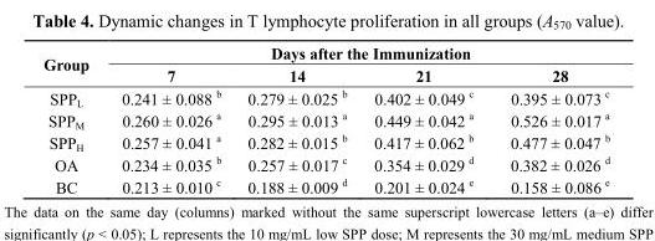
<table><thead><tr><td rowspan="2">Group</td><td colspan="4">Days after the Immunization</td></tr><tr><td>7</td><td>14</td><td>21</td><td>28</td></tr></thead><tbody><tr><td>SPP<sub>L</sub></td><td>0.241 ± 0.088 <sup>b</sup></td><td>0.279 ± 0.025 <sup>b</sup></td><td>0.402 ± 0.049 <sup>c</sup></td><td>0.395 ± 0.073 <sup>c</sup></td></tr><tr><td>SPP<sub>M</sub></td><td>0.260 ± 0.026 <sup>a</sup></td><td>0.295 ± 0.013 <sup>a</sup></td><td>0.449 ± 0.042 <sup>a</sup></td><td>0.526 ± 0.017 <sup>a</sup></td></tr><tr><td>SPP<sub>H</sub></td><td>0.257 ± 0.041 <sup>a</sup></td><td>0.282 ± 0.015 <sup>b</sup></td><td>0.417 ± 0.062 <sup>b</sup></td><td>0.477 ± 0.047 <sup>b</sup></td></tr><tr><td>OA</td><td>0.234 ± 0.035 <sup>b</sup></td><td>0.257 ± 0.017 <sup>c</sup></td><td>0.354 ± 0.029 <sup>d</sup></td><td>0.382 ± 0.026 <sup>d</sup></td></tr><tr><td>BC</td><td>0.213 ± 0.010 <sup>c</sup></td><td>0.188 ± 0.009 <sup>d</sup></td><td>0.201 ± 0.024 <sup>e</sup></td><td>0.158 ± 0.086 <sup>e</sup></td></tr></tbody></table>